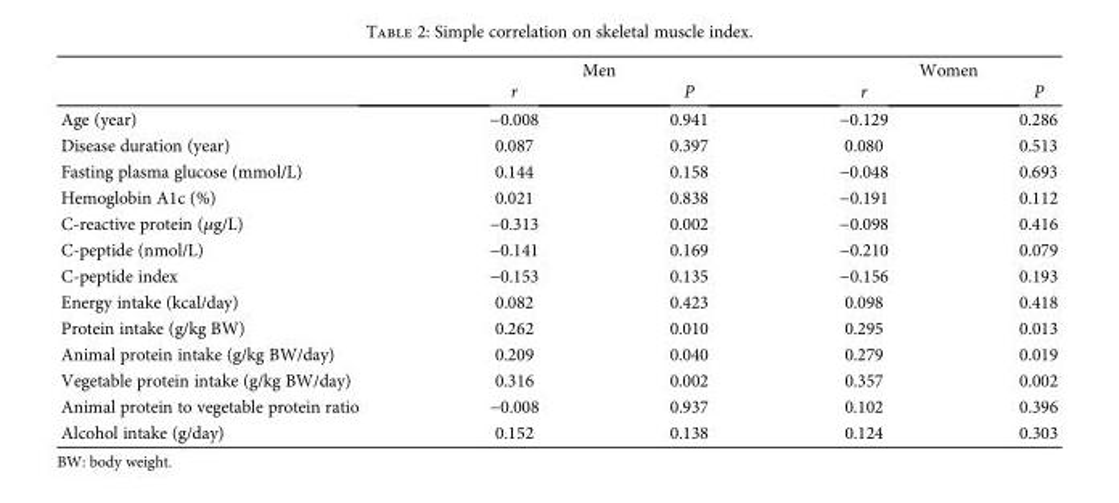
<table><thead><tr><td rowspan="2"></td><td colspan="2">Men</td><td colspan="2">Women</td></tr><tr><td>r</td><td>P</td><td>r</td><td>P</td></tr></thead><tbody><tr><td>Age (year)</td><td>−0.008</td><td>0.941</td><td>−0.129</td><td>0.286</td></tr><tr><td>Disease duration (year)</td><td>0.087</td><td>0.397</td><td>0.080</td><td>0.513</td></tr><tr><td>Fasting plasma glucose (mmol/L)</td><td>0.144</td><td>0.158</td><td>−0.048</td><td>0.693</td></tr><tr><td>Hemoglobin A1c (%)</td><td>0.021</td><td>0.838</td><td>−0.191</td><td>0.112</td></tr><tr><td>C-reactive protein (μg/L)</td><td>−0.313</td><td>0.002</td><td>−0.098</td><td>0.416</td></tr><tr><td>C-peptide (nmol/L)</td><td>−0.141</td><td>0.169</td><td>−0.210</td><td>0.079</td></tr><tr><td>C-peptide index</td><td>−0.153</td><td>0.135</td><td>−0.156</td><td>0.193</td></tr><tr><td>Energy intake (kcal/day)</td><td>0.082</td><td>0.423</td><td>0.098</td><td>0.418</td></tr><tr><td>Protein intake (g/kg BW)</td><td>0.262</td><td>0.010</td><td>0.295</td><td>0.013</td></tr><tr><td>Animal protein intake (g/kg BW/day)</td><td>0.209</td><td>0.040</td><td>0.279</td><td>0.019</td></tr><tr><td>Vegetable protein intake (g/kg BW/day)</td><td>0.316</td><td>0.002</td><td>0.357</td><td>0.002</td></tr><tr><td>Animal protein to vegetable protein ratio</td><td>−0.008</td><td>0.937</td><td>0.102</td><td>0.396</td></tr><tr><td>Alcohol intake (g/day)</td><td>0.152</td><td>0.138</td><td>0.124</td><td>0.303</td></tr></tbody></table>